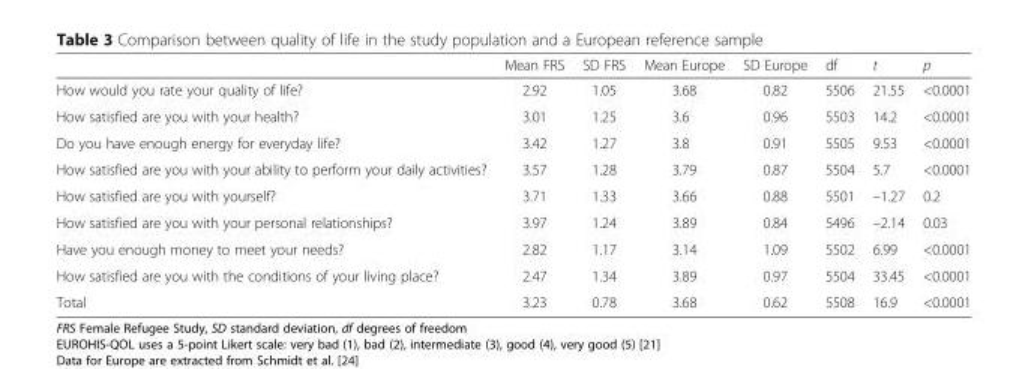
<table><thead><tr><td></td><td>Mean FRS</td><td>SD FRS</td><td>Mean Europe</td><td>SD Europe</td><td>df</td><td>t</td><td>p</td></tr></thead><tbody><tr><td>How would you rate your quality of life?</td><td>2.92</td><td>1.05</td><td>3.68</td><td>0.82</td><td>5506</td><td>21.55</td><td>&lt;0.0001</td></tr><tr><td>How satisfied are you with your health?</td><td>3.01</td><td>1.25</td><td>3.6</td><td>0.96</td><td>5503</td><td>14.2</td><td>&lt;0.0001</td></tr><tr><td>Do you have enough energy for everyday life?</td><td>3.42</td><td>1.27</td><td>3.8</td><td>0.91</td><td>5505</td><td>9.53</td><td>&lt;0.0001</td></tr><tr><td>How satisfied are you with your ability to perform your daily activities?</td><td>3.57</td><td>1.28</td><td>3.79</td><td>0.87</td><td>5504</td><td>5.7</td><td>&lt;0.0001</td></tr><tr><td>How satisfied are you with yourself?</td><td>3.71</td><td>1.33</td><td>3.66</td><td>0.88</td><td>5501</td><td>–1.27</td><td>0.2</td></tr><tr><td>How satisfied are you with your personal relationships?</td><td>3.97</td><td>1.24</td><td>3.89</td><td>0.84</td><td>5496</td><td>–2.14</td><td>0.03</td></tr><tr><td>Have you enough money to meet your needs?</td><td>2.82</td><td>1.17</td><td>3.14</td><td>1.09</td><td>5502</td><td>6.99</td><td>&lt;0.0001</td></tr><tr><td>How satisfied are you with the conditions of your living place?</td><td>2.47</td><td>1.34</td><td>3.89</td><td>0.97</td><td>5504</td><td>33.45</td><td>&lt;0.0001</td></tr><tr><td>Total</td><td>3.23</td><td>0.78</td><td>3.68</td><td>0.62</td><td>5508</td><td>16.9</td><td>&lt;0.0001</td></tr></tbody></table>